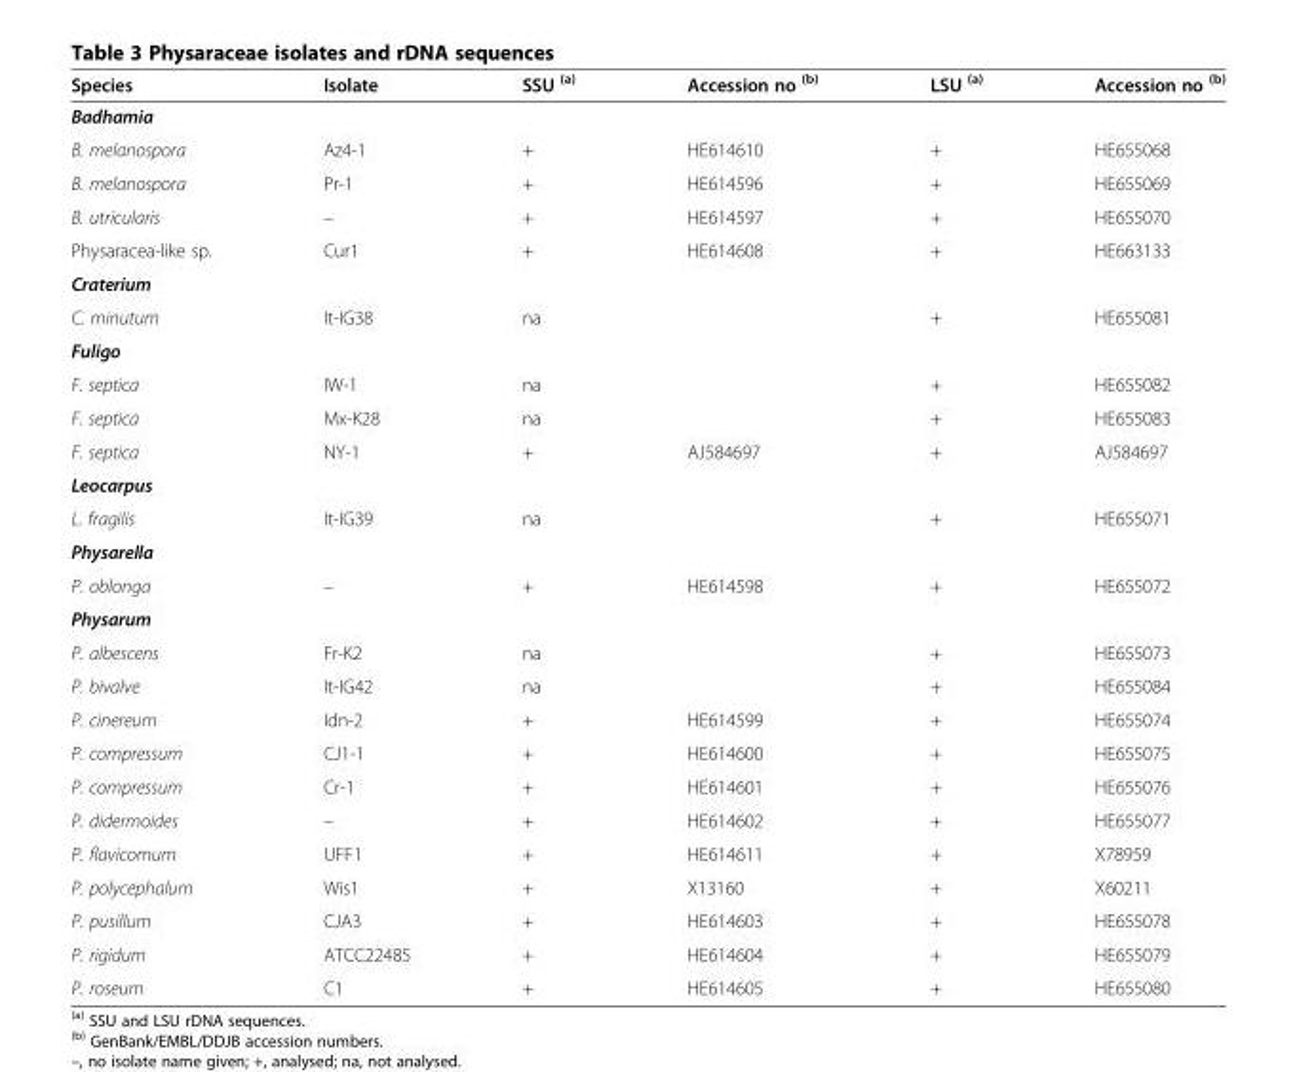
<table><thead><tr><td>Species</td><td>Isolate</td><td>SSU <sup>(a)</sup></td><td>Accession no <sup>(b)</sup></td><td>LSU <sup>(a)</sup></td><td>Accession no <sup>(b)</sup></td></tr></thead><tbody><tr><td colspan="6">Badhamia</td></tr><tr><td>B. melanospora</td><td>Az4-1</td><td>+</td><td>HE614610</td><td>+</td><td>HE655068</td></tr><tr><td>B. melanospora</td><td>Pr-1</td><td>+</td><td>HE614596</td><td>+</td><td>HE655069</td></tr><tr><td>B. utricularis</td><td>–</td><td>+</td><td>HE614597</td><td>+</td><td>HE655070</td></tr><tr><td>Physaracea-like sp.</td><td>Cur1</td><td>+</td><td>HE614608</td><td>+</td><td>HE663133</td></tr><tr><td colspan="6">Craterium</td></tr><tr><td>C. minutum</td><td>It-IG38</td><td>na</td><td></td><td>+</td><td>HE655081</td></tr><tr><td colspan="6">Fuligo</td></tr><tr><td>F. septica</td><td>IW-1</td><td>na</td><td></td><td>+</td><td>HE655082</td></tr><tr><td>F. septica</td><td>Mx-K28</td><td>na</td><td></td><td>+</td><td>HE655083</td></tr><tr><td>F. septica</td><td>NY-1</td><td>+</td><td>AJ584697</td><td>+</td><td>AJ584697</td></tr><tr><td colspan="6">Leocarpus</td></tr><tr><td>L. fragilis</td><td>It-IG39</td><td>na</td><td></td><td>+</td><td>HE655071</td></tr><tr><td colspan="6">Physarella</td></tr><tr><td>P. oblonga</td><td>–</td><td>+</td><td>HE614598</td><td>+</td><td>HE655072</td></tr><tr><td colspan="6">Physarum</td></tr><tr><td>P. albescens</td><td>Fr-K2</td><td>na</td><td></td><td>+</td><td>HE655073</td></tr><tr><td>P. bivalve</td><td>It-IG42</td><td>na</td><td></td><td>+</td><td>HE655084</td></tr><tr><td>P. cinereum</td><td>Idn-2</td><td>+</td><td>HE614599</td><td>+</td><td>HE655074</td></tr><tr><td>P. compressum</td><td>CJ1-1</td><td>+</td><td>HE614600</td><td>+</td><td>HE655075</td></tr><tr><td>P. compressum</td><td>Cr-1</td><td>+</td><td>HE614601</td><td>+</td><td>HE655076</td></tr><tr><td>P. didermoides</td><td>–</td><td>+</td><td>HE614602</td><td>+</td><td>HE655077</td></tr><tr><td>P. flavicomum</td><td>UFF1</td><td>+</td><td>HE614611</td><td>+</td><td>X78959</td></tr><tr><td>P. polycephalum</td><td>Wis1</td><td>+</td><td>X13160</td><td>+</td><td>X60211</td></tr><tr><td>P. pusillum</td><td>CJA3</td><td>+</td><td>HE614603</td><td>+</td><td>HE655078</td></tr><tr><td>P. rigidum</td><td>ATCC22485</td><td>+</td><td>HE614604</td><td>+</td><td>HE655079</td></tr><tr><td>P. roseum</td><td>C1</td><td>+</td><td>HE614605</td><td>+</td><td>HE655080</td></tr></tbody></table>